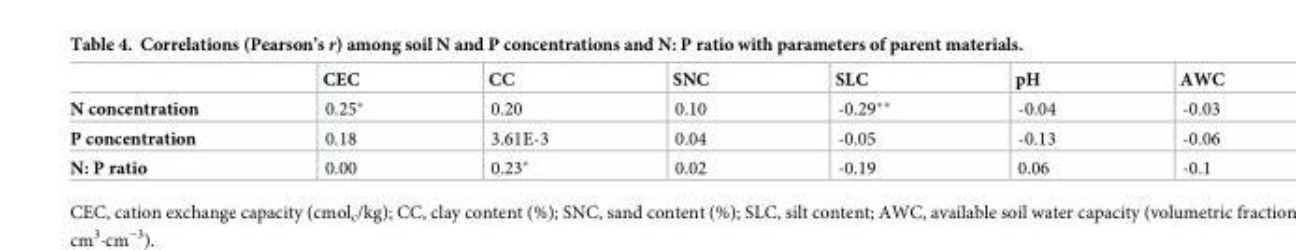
<table><thead><tr><td></td><td>CEC</td><td>CC</td><td>SNC</td><td>SLC</td><td>pH</td><td>AWC</td></tr></thead><tbody><tr><td>N concentration</td><td>0.25*</td><td>0.20</td><td>0.10</td><td>-0.29**</td><td>-0.04</td><td>-0.03</td></tr><tr><td>P concentration</td><td>0.18</td><td>3.61E-3</td><td>0.04</td><td>-0.05</td><td>-0.13</td><td>-0.06</td></tr><tr><td>N: P ratio</td><td>0.00</td><td>0.23*</td><td>0.02</td><td>-0.19</td><td>0.06</td><td>-0.1</td></tr></tbody></table>